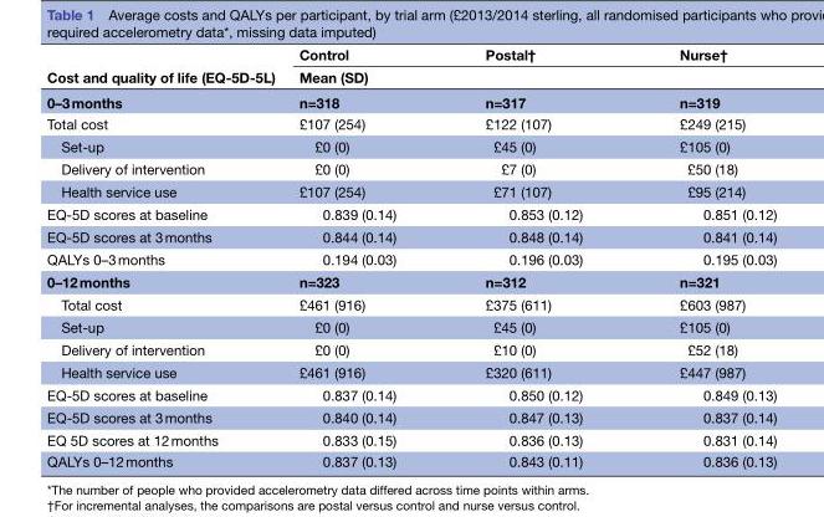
<table><thead><tr><td rowspan="2">Cost and quality of life (EQ-5D-5L)</td><td>Control</td><td>Postal†</td><td>Nurse†</td></tr><tr><td colspan="3">Mean (SD)</td></tr></thead><tbody><tr><td>0–3 months</td><td>n=318</td><td>n=317</td><td>n=319</td></tr><tr><td>Total cost</td><td>£107 (254)</td><td>£122 (107)</td><td>£249 (215)</td></tr><tr><td>Set-up</td><td>£0 (0)</td><td>£45 (0)</td><td>£105 (0)</td></tr><tr><td>Delivery of intervention</td><td>£0 (0)</td><td>£7 (0)</td><td>£50 (18)</td></tr><tr><td>Health service use</td><td>£107 (254)</td><td>£71 (107)</td><td>£95 (214)</td></tr><tr><td>EQ-5D scores at baseline</td><td>0.839 (0.14)</td><td>0.853 (0.12)</td><td>0.851 (0.12)</td></tr><tr><td>EQ-5D scores at 3 months</td><td>0.844 (0.14)</td><td>0.848 (0.14)</td><td>0.841 (0.14)</td></tr><tr><td>QALYs 0–3 months</td><td>0.194 (0.03)</td><td>0.196 (0.03)</td><td>0.195 (0.03)</td></tr><tr><td>0–12 months</td><td>n=323</td><td>n=312</td><td>n=321</td></tr><tr><td>Total cost</td><td>£461 (916)</td><td>£375 (611)</td><td>£603 (987)</td></tr><tr><td>Set-up</td><td>£0 (0)</td><td>£45 (0)</td><td>£105 (0)</td></tr><tr><td>Delivery of intervention</td><td>£0 (0)</td><td>£10 (0)</td><td>£52 (18)</td></tr><tr><td>Health service use</td><td>£461 (916)</td><td>£320 (611)</td><td>£447 (987)</td></tr><tr><td>EQ-5D scores at baseline</td><td>0.837 (0.14)</td><td>0.850 (0.12)</td><td>0.849 (0.13)</td></tr><tr><td>EQ-5D scores at 3 months</td><td>0.840 (0.14)</td><td>0.847 (0.13)</td><td>0.837 (0.14)</td></tr><tr><td>EQ 5D scores at 12 months</td><td>0.833 (0.15)</td><td>0.836 (0.13)</td><td>0.831 (0.14)</td></tr><tr><td>QALYs 0–12 months</td><td>0.837 (0.13)</td><td>0.843 (0.11)</td><td>0.836 (0.13)</td></tr></tbody></table>